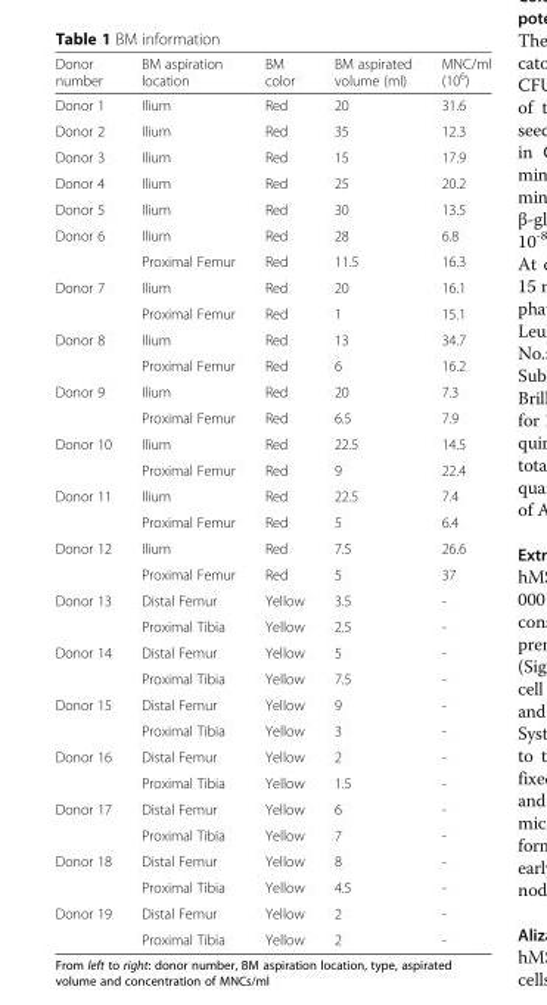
<table><thead><tr><td>Donor number</td><td>BM aspiration location</td><td>BM color</td><td>BM aspirated volume (ml)</td><td>MNC/ml (10<sup>6</sup>)</td></tr></thead><tbody><tr><td>Donor 1</td><td>Ilium</td><td>Red</td><td>20</td><td>31.6</td></tr><tr><td>Donor 2</td><td>Ilium</td><td>Red</td><td>35</td><td>12.3</td></tr><tr><td>Donor 3</td><td>Ilium</td><td>Red</td><td>15</td><td>17.9</td></tr><tr><td>Donor 4</td><td>Ilium</td><td>Red</td><td>25</td><td>20.2</td></tr><tr><td>Donor 5</td><td>Ilium</td><td>Red</td><td>30</td><td>13.5</td></tr><tr><td rowspan="2">Donor 6</td><td>Ilium</td><td>Red</td><td>28</td><td>6.8</td></tr><tr><td>Proximal Femur</td><td>Red</td><td>11.5</td><td>16.3</td></tr><tr><td rowspan="2">Donor 7</td><td>Ilium</td><td>Red</td><td>20</td><td>16.1</td></tr><tr><td>Proximal Femur</td><td>Red</td><td>1</td><td>15.1</td></tr><tr><td rowspan="2">Donor 8</td><td>Ilium</td><td>Red</td><td>13</td><td>34.7</td></tr><tr><td>Proximal Femur</td><td>Red</td><td>6</td><td>16.2</td></tr><tr><td rowspan="2">Donor 9</td><td>Ilium</td><td>Red</td><td>20</td><td>7.3</td></tr><tr><td>Proximal Femur</td><td>Red</td><td>6.5</td><td>7.9</td></tr><tr><td rowspan="2">Donor 10</td><td>Ilium</td><td>Red</td><td>22.5</td><td>14.5</td></tr><tr><td>Proximal Femur</td><td>Red</td><td>9</td><td>22.4</td></tr><tr><td rowspan="2">Donor 11</td><td>Ilium</td><td>Red</td><td>22.5</td><td>7.4</td></tr><tr><td>Proximal Femur</td><td>Red</td><td>5</td><td>6.4</td></tr><tr><td rowspan="2">Donor 12</td><td>Ilium</td><td>Red</td><td>7.5</td><td>26.6</td></tr><tr><td>Proximal Femur</td><td>Red</td><td>5</td><td>37</td></tr><tr><td rowspan="2">Donor 13</td><td>Distal Femur</td><td>Yellow</td><td>3.5</td><td>-</td></tr><tr><td>Proximal Tibia</td><td>Yellow</td><td>2.5</td><td>-</td></tr><tr><td rowspan="2">Donor 14</td><td>Distal Femur</td><td>Yellow</td><td>5</td><td>-</td></tr><tr><td>Proximal Tibia</td><td>Yellow</td><td>7.5</td><td>-</td></tr><tr><td rowspan="2">Donor 15</td><td>Distal Femur</td><td>Yellow</td><td>9</td><td>-</td></tr><tr><td>Proximal Tibia</td><td>Yellow</td><td>3</td><td>-</td></tr><tr><td rowspan="2">Donor 16</td><td>Distal Femur</td><td>Yellow</td><td>2</td><td>-</td></tr><tr><td>Proximal Tibia</td><td>Yellow</td><td>1.5</td><td>-</td></tr><tr><td rowspan="2">Donor 17</td><td>Distal Femur</td><td>Yellow</td><td>6</td><td>-</td></tr><tr><td>Proximal Tibia</td><td>Yellow</td><td>7</td><td>-</td></tr><tr><td rowspan="2">Donor 18</td><td>Distal Femur</td><td>Yellow</td><td>8</td><td>-</td></tr><tr><td>Proximal Tibia</td><td>Yellow</td><td>4.5</td><td>-</td></tr><tr><td rowspan="2">Donor 19</td><td>Distal Femur</td><td>Yellow</td><td>2</td><td>-</td></tr><tr><td>Proximal Tibia</td><td>Yellow</td><td>2</td><td>-</td></tr></tbody></table>